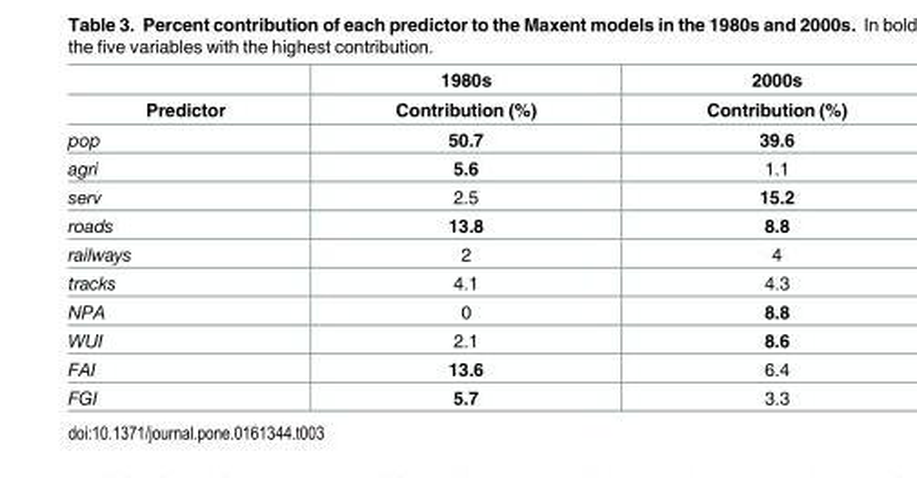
<table><thead><tr><td rowspan="2">Predictor</td><td rowspan="2">1980s Contribution (%)</td><td rowspan="2">2000s Contribution (%)</td></tr><tr></tr></thead><tbody><tr><td>pop</td><td>50.7</td><td>39.6</td></tr><tr><td>agri</td><td>5.6</td><td>1.1</td></tr><tr><td>serv</td><td>2.5</td><td>15.2</td></tr><tr><td>roads</td><td>13.8</td><td>8.8</td></tr><tr><td>railways</td><td>2</td><td>4</td></tr><tr><td>tracks</td><td>4.1</td><td>4.3</td></tr><tr><td>NPA</td><td>0</td><td>8.8</td></tr><tr><td>WUI</td><td>2.1</td><td>8.6</td></tr><tr><td>FAI</td><td>13.6</td><td>6.4</td></tr><tr><td>FGI</td><td>5.7</td><td>3.3</td></tr></tbody></table>